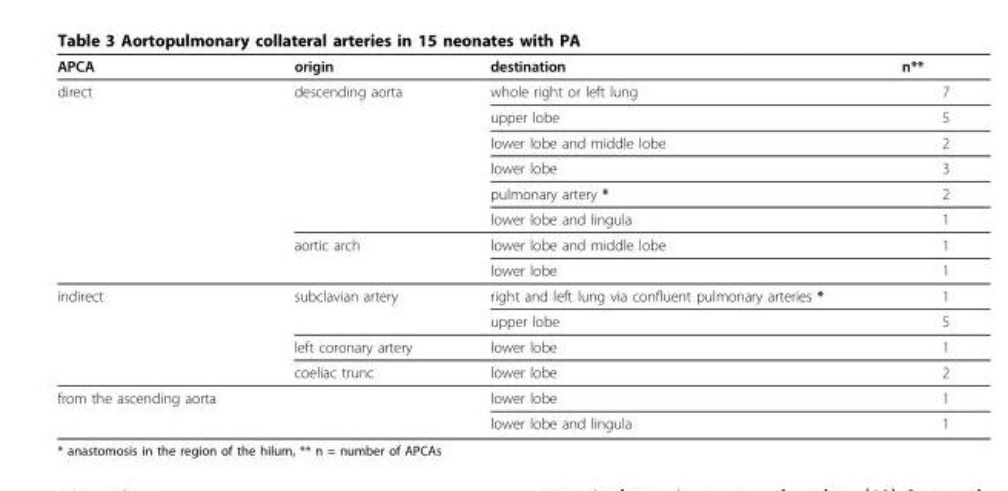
<table><thead><tr><td>APCA</td><td>origin</td><td>destination</td><td>n**</td></tr></thead><tbody><tr><td rowspan="8">direct</td><td>descending aorta</td><td>whole right or left lung</td><td>7</td></tr><tr><td></td><td>upper lobe</td><td>5</td></tr><tr><td></td><td>lower lobe and middle lobe</td><td>2</td></tr><tr><td></td><td>lower lobe</td><td>3</td></tr><tr><td></td><td>pulmonary artery *</td><td>2</td></tr><tr><td></td><td>lower lobe and lingula</td><td>1</td></tr><tr><td>aortic arch</td><td>lower lobe and middle lobe</td><td>1</td></tr><tr><td></td><td>lower lobe</td><td>1</td></tr><tr><td rowspan="4">indirect</td><td>subclavian artery</td><td>right and left lung via confluent pulmonary arteries *</td><td>1</td></tr><tr><td></td><td>upper lobe</td><td>5</td></tr><tr><td>left coronary artery</td><td>lower lobe</td><td>1</td></tr><tr><td>coeliac trunc</td><td>lower lobe</td><td>2</td></tr><tr><td rowspan="2">from the ascending aorta</td><td></td><td>lower lobe</td><td>1</td></tr><tr><td></td><td>lower lobe and lingula</td><td>1</td></tr></tbody></table>